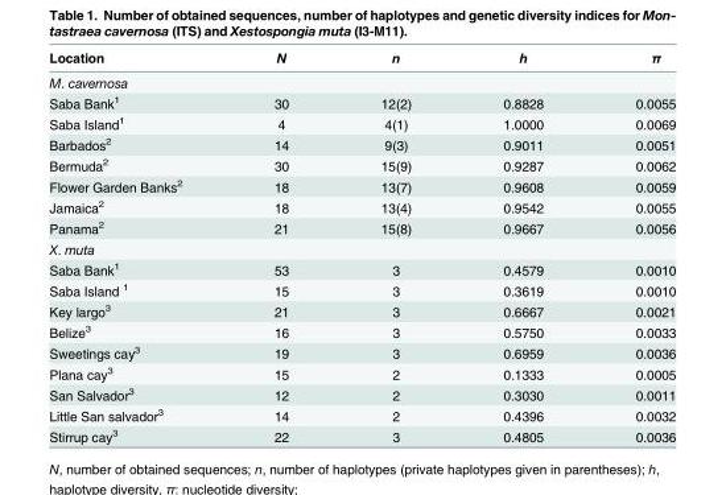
<table><thead><tr><td>Location</td><td>N</td><td>n</td><td>h</td><td>π</td></tr></thead><tbody><tr><td colspan="5">M. cavernosa</td></tr><tr><td>Saba Bank<sup>1</sup></td><td>30</td><td>12(2)</td><td>0.8828</td><td>0.0055</td></tr><tr><td>Saba Island<sup>1</sup></td><td>4</td><td>4(1)</td><td>1.0000</td><td>0.0069</td></tr><tr><td>Barbados<sup>2</sup></td><td>14</td><td>9(3)</td><td>0.9011</td><td>0.0051</td></tr><tr><td>Bermuda<sup>2</sup></td><td>30</td><td>15(9)</td><td>0.9287</td><td>0.0062</td></tr><tr><td>Flower Garden Banks<sup>2</sup></td><td>18</td><td>13(7)</td><td>0.9608</td><td>0.0059</td></tr><tr><td>Jamaica<sup>2</sup></td><td>18</td><td>13(4)</td><td>0.9542</td><td>0.0055</td></tr><tr><td>Panama<sup>2</sup></td><td>21</td><td>15(8)</td><td>0.9667</td><td>0.0056</td></tr><tr><td colspan="5">X. muta</td></tr><tr><td>Saba Bank<sup>1</sup></td><td>53</td><td>3</td><td>0.4579</td><td>0.0010</td></tr><tr><td>Saba Island <sup>1</sup></td><td>15</td><td>3</td><td>0.3619</td><td>0.0010</td></tr><tr><td>Key largo<sup>3</sup></td><td>21</td><td>3</td><td>0.6667</td><td>0.0021</td></tr><tr><td>Belize<sup>3</sup></td><td>16</td><td>3</td><td>0.5750</td><td>0.0033</td></tr><tr><td>Sweetings cay<sup>3</sup></td><td>19</td><td>3</td><td>0.6959</td><td>0.0036</td></tr><tr><td>Plana cay<sup>3</sup></td><td>15</td><td>2</td><td>0.1333</td><td>0.0005</td></tr><tr><td>San Salvador<sup>3</sup></td><td>12</td><td>2</td><td>0.3030</td><td>0.0011</td></tr><tr><td>Little San salvador<sup>3</sup></td><td>14</td><td>2</td><td>0.4396</td><td>0.0032</td></tr><tr><td>Stirrup cay<sup>3</sup></td><td>22</td><td>3</td><td>0.4805</td><td>0.0036</td></tr></tbody></table>